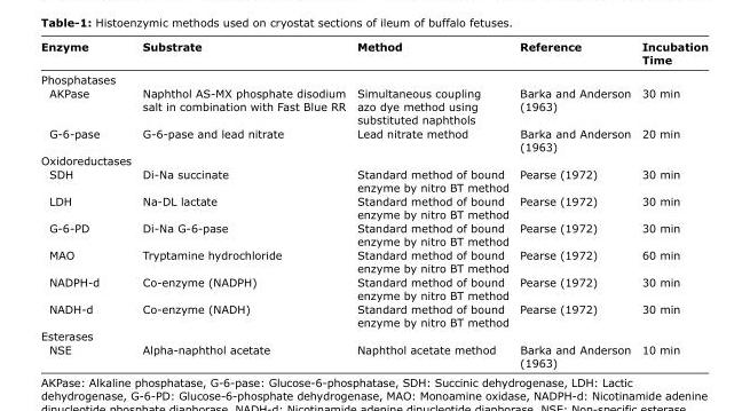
<table><thead><tr><td>Enzyme</td><td>Substrate</td><td>Method</td><td>Reference</td><td>Incubation Time</td></tr></thead><tbody><tr><td colspan="5">Phosphatases</td></tr><tr><td>AKPase</td><td>Naphthol AS-MX phosphate disodium salt in combination with Fast Blue RR</td><td>Simultaneous coupling azo dye method using substituted naphthols</td><td>Barka and Anderson (1963)</td><td>30 min</td></tr><tr><td>G-6-pase</td><td>G-6-pase and lead nitrate</td><td>Lead nitrate method</td><td>Barka and Anderson (1963)</td><td>20 min</td></tr><tr><td colspan="5">Oxidoreductases</td></tr><tr><td>SDH</td><td>Di-Na succinate</td><td>Standard method of bound enzyme by nitro BT method</td><td>Pearse (1972)</td><td>30 min</td></tr><tr><td>LDH</td><td>Na-DL lactate</td><td>Standard method of bound enzyme by nitro BT method</td><td>Pearse (1972)</td><td>30 min</td></tr><tr><td>G-6-PD</td><td>Di-Na G-6-pase</td><td>Standard method of bound enzyme by nitro BT method</td><td>Pearse (1972)</td><td>30 min</td></tr><tr><td>MAO</td><td>Tryptamine hydrochloride</td><td>Standard method of bound enzyme by nitro BT method</td><td>Pearse (1972)</td><td>60 min</td></tr><tr><td>NADPH-d</td><td>Co-enzyme (NADPH)</td><td>Standard method of bound enzyme by nitro BT method</td><td>Pearse (1972)</td><td>30 min</td></tr><tr><td>NADH-d</td><td>Co-enzyme (NADH)</td><td>Standard method of bound enzyme by nitro BT method</td><td>Pearse (1972)</td><td>30 min</td></tr><tr><td colspan="5">Esterases</td></tr><tr><td>NSE</td><td>Alpha-naphthol acetate</td><td>Naphthol acetate method</td><td>Barka and Anderson (1963)</td><td>10 min</td></tr></tbody></table>